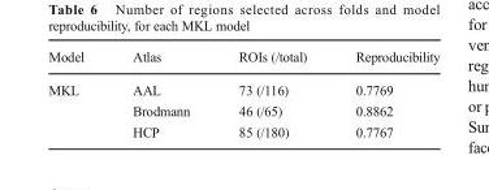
<table><thead><tr><td>Model</td><td>Atlas</td><td>ROIs (/total)</td><td>Reproducibility</td></tr></thead><tbody><tr><td rowspan="3">MKL</td><td>AAL</td><td>73 (/116)</td><td>0.7769</td></tr><tr><td>Brodmann</td><td>46 (/65)</td><td>0.8862</td></tr><tr><td>HCP</td><td>85 (/180)</td><td>0.7767</td></tr></tbody></table>